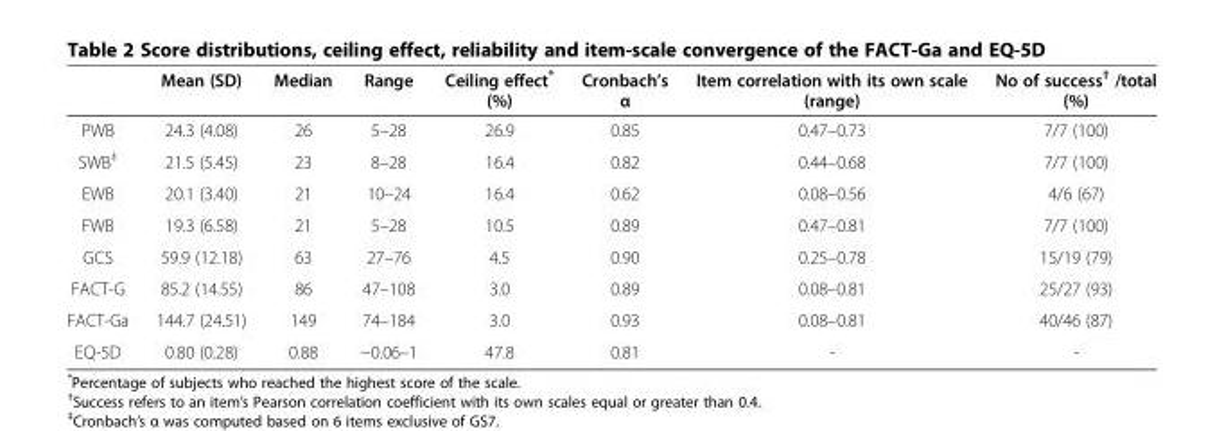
<table><thead><tr><td></td><td>Mean (SD)</td><td>Median</td><td>Range</td><td>Ceiling effect* (%)</td><td>Cronbach’s α</td><td>Item correlation with its own scale (range)</td><td>No of success<sup>†</sup> /total (%)</td></tr></thead><tbody><tr><td>PWB</td><td>24.3 (4.08)</td><td>26</td><td>5–28</td><td>26.9</td><td>0.85</td><td>0.47–0.73</td><td>7/7 (100)</td></tr><tr><td>SWB<sup>‡</sup></td><td>21.5 (5.45)</td><td>23</td><td>8–28</td><td>16.4</td><td>0.82</td><td>0.44–0.68</td><td>7/7 (100)</td></tr><tr><td>EWB</td><td>20.1 (3.40)</td><td>21</td><td>10–24</td><td>16.4</td><td>0.62</td><td>0.08–0.56</td><td>4/6 (67)</td></tr><tr><td>FWB</td><td>19.3 (6.58)</td><td>21</td><td>5–28</td><td>10.5</td><td>0.89</td><td>0.47–0.81</td><td>7/7 (100)</td></tr><tr><td>GCS</td><td>59.9 (12.18)</td><td>63</td><td>27–76</td><td>4.5</td><td>0.90</td><td>0.25–0.78</td><td>15/19 (79)</td></tr><tr><td>FACT-G</td><td>85.2 (14.55)</td><td>86</td><td>47–108</td><td>3.0</td><td>0.89</td><td>0.08–0.81</td><td>25/27 (93)</td></tr><tr><td>FACT-Ga</td><td>144.7 (24.51)</td><td>149</td><td>74–184</td><td>3.0</td><td>0.93</td><td>0.08–0.81</td><td>40/46 (87)</td></tr><tr><td>EQ-5D</td><td>0.80 (0.28)</td><td>0.88</td><td>−0.06–1</td><td>47.8</td><td>0.81</td><td>-</td><td>-</td></tr></tbody></table>